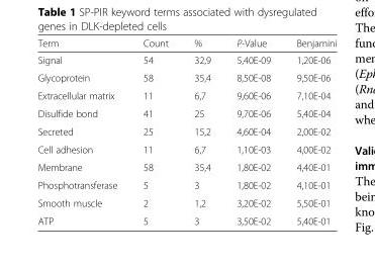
<table><thead><tr><td>Term</td><td>Count</td><td>%</td><td>P-Value</td><td>Benjamini</td></tr></thead><tbody><tr><td>Signal</td><td>54</td><td>32,9</td><td>5,40E-09</td><td>1,20E-06</td></tr><tr><td>Glycoprotein</td><td>58</td><td>35,4</td><td>8,50E-08</td><td>9,50E-06</td></tr><tr><td>Extracellular matrix</td><td>11</td><td>6,7</td><td>9,60E-06</td><td>7,10E-04</td></tr><tr><td>Disulfide bond</td><td>41</td><td>25</td><td>9,70E-06</td><td>5,40E-04</td></tr><tr><td>Secreted</td><td>25</td><td>15,2</td><td>4,60E-04</td><td>2,00E-02</td></tr><tr><td>Cell adhesion</td><td>11</td><td>6,7</td><td>1,10E-03</td><td>4,00E-02</td></tr><tr><td>Membrane</td><td>58</td><td>35,4</td><td>1,80E-02</td><td>4,40E-01</td></tr><tr><td>Phosphotransferase</td><td>5</td><td>3</td><td>1,80E-02</td><td>4,10E-01</td></tr><tr><td>Smooth muscle</td><td>2</td><td>1,2</td><td>3,20E-02</td><td>5,50E-01</td></tr><tr><td>ATP</td><td>5</td><td>3</td><td>3,50E-02</td><td>5,40E-01</td></tr></tbody></table>